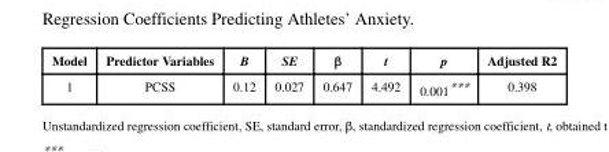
<table><thead><tr><td>Model</td><td>Predictor Variables</td><td>B</td><td>SE</td><td>β</td><td>t</td><td>p</td><td>Adjusted R2</td></tr></thead><tbody><tr><td>1</td><td>PCSS</td><td>0.12</td><td>0.027</td><td>0.647</td><td>4.492</td><td>0.001***</td><td>0.398</td></tr></tbody></table>